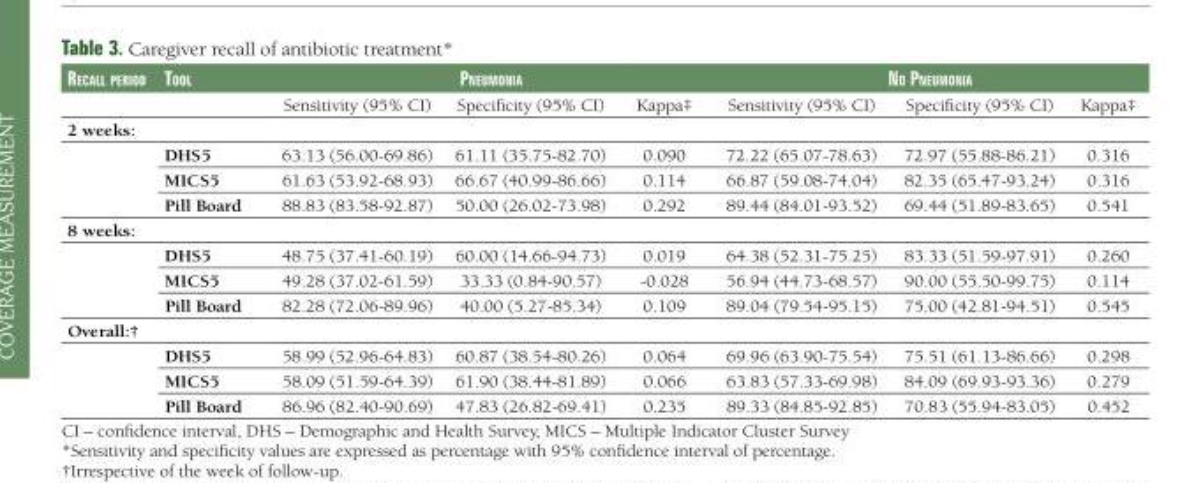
<table><thead><tr><td rowspan="2">reCall Period</td><td rowspan="2">tool</td><td colspan="3">Pneumonia</td><td colspan="3">no Pneumonia</td></tr><tr><td>Sensitivity (95% CI)</td><td>Specificity (95% CI)</td><td>Kappa‡</td><td>Sensitivity (95% CI)</td><td>Specificity (95% CI)</td><td>Kappa‡</td></tr></thead><tbody><tr><td colspan="8">2 weeks:</td></tr><tr><td rowspan="3"></td><td>DHS5</td><td>63.13 (56.00-69.86)</td><td>61.11 (35.75-82.70)</td><td>0.090</td><td>72.22 (65.07-78.63)</td><td>72.97 (55.88-86.21)</td><td>0.316</td></tr><tr><td>MICS5</td><td>61.63 (53.92-68.93)</td><td>66.67 (40.99-86.66)</td><td>0.114</td><td>66.87 (59.08-74.04)</td><td>82.35 (65.47-93.24)</td><td>0.316</td></tr><tr><td>Pill Board</td><td>88.83 (83.58-92.87)</td><td>50.00 (26.02-73.98)</td><td>0.292</td><td>89.44 (84.01-93.52)</td><td>69.44 (51.89-83.65)</td><td>0.541</td></tr><tr><td colspan="8">8 weeks:</td></tr><tr><td rowspan="3"></td><td>DHS5</td><td>48.75 (37.41-60.19)</td><td>60.00 (14.66-94.73)</td><td>0.019</td><td>64.38 (52.31-75.25)</td><td>83.33 (51.59-97.91)</td><td>0.260</td></tr><tr><td>MICS5</td><td>49.28 (37.02-61.59)</td><td>33.33 (0.84-90.57)</td><td>-0.028</td><td>56.94 (44.73-68.57)</td><td>90.00 (55.50-99.75)</td><td>0.114</td></tr><tr><td>Pill Board</td><td>82.28 (72.06-89.96)</td><td>40.00 (5.27-85.34)</td><td>0.109</td><td>89.04 (79.54-95.15)</td><td>75.00 (42.81-94.51)</td><td>0.545</td></tr><tr><td colspan="8">Overall:†</td></tr><tr><td rowspan="3"></td><td>DHS5</td><td>58.99 (52.96-64.83)</td><td>60.87 (38.54-80.26)</td><td>0.064</td><td>69.96 (63.90-75.54)</td><td>75.51 (61.13-86.66)</td><td>0.298</td></tr><tr><td>MICS5</td><td>58.09 (51.59-64.39)</td><td>61.90 (38.44-81.89)</td><td>0.066</td><td>63.83 (57.33-69.98)</td><td>84.09 (69.93-93.36)</td><td>0.279</td></tr><tr><td>Pill Board</td><td>86.96 (82.40-90.69)</td><td>47.83 (26.82-69.41)</td><td>0.235</td><td>89.33 (84.85-92.85)</td><td>70.83 (55.94-83.05)</td><td>0.452</td></tr></tbody></table>